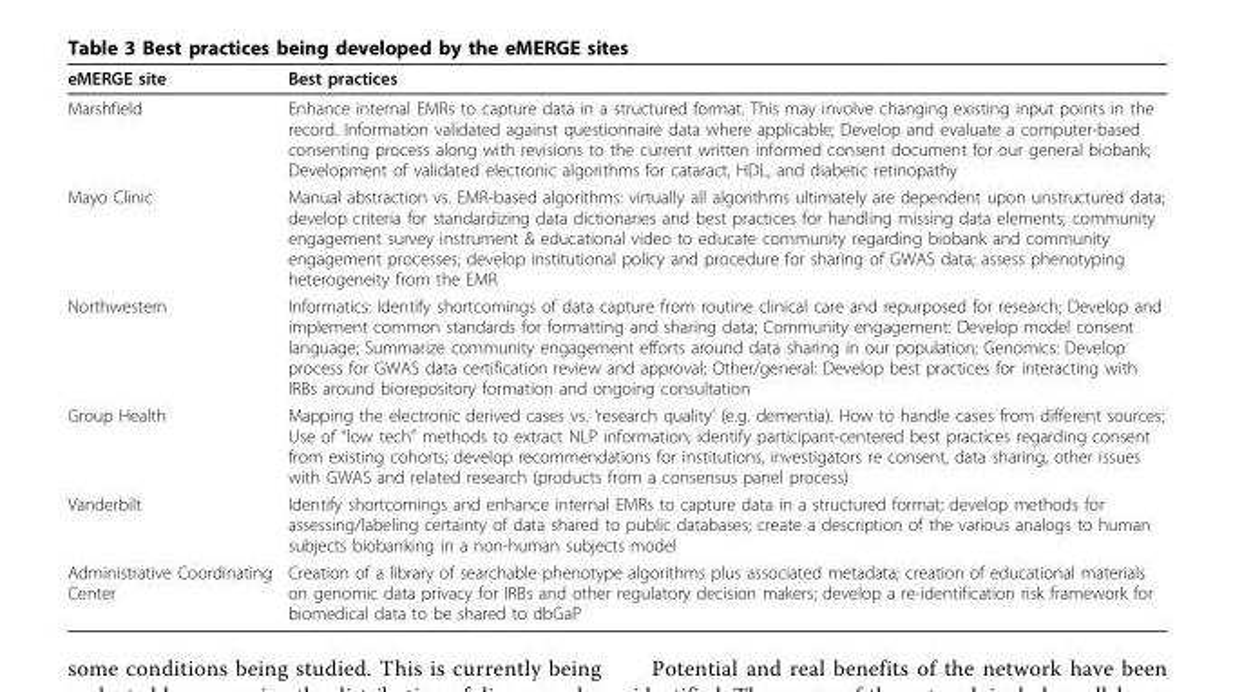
<table><tbody><tr><td>eMERGE site</td><td>Best practices</td></tr><tr><td>Marshfield</td><td>Enhance internal EMRs to capture data in a structured format. This may involve changing existing input points in the record. Information validated against questionnaire data where applicable; Develop and evaluate a computer-based consenting process along with revisions to the current written informed consent document for our general biobank; Development of validated electronic algorithms for cataract, HDL, and diabetic retinopathy</td></tr><tr><td>Mayo Clinic</td><td>Manual abstraction vs. EMR-based algorithms: virtually all algorithms ultimately are dependent upon unstructured data; develop criteria for standardizing data dictionaries and best practices for handling missing data elements; community engagement survey instrument &amp; educational video to educate community regarding biobank and community engagement processes; develop institutional policy and procedure for sharing of GWAS data; assess phenotyping heterogeneity from the EMR</td></tr><tr><td>Northwestern</td><td>Informatics: Identify shortcomings of data capture from routine clinical care and repurposed for research; Develop and implement common standards for formatting and sharing data; Community engagement: Develop model consent language; Summarize community engagement efforts around data sharing in our population; Genomics: Develop process for GWAS data certification review and approval; Other/general: Develop best practices for interacting with IRBs around biorepository formation and ongoing consultation</td></tr><tr><td>Group Health</td><td>Mapping the electronic derived cases vs. ‘research quality’ (e.g. dementia). How to handle cases from different sources; Use of “low tech” methods to extract NLP information; identify participant-centered best practices regarding consent from existing cohorts; develop recommendations for institutions, investigators re consent, data sharing, other issues with GWAS and related research (products from a consensus panel process)</td></tr><tr><td>Vanderbilt</td><td>Identify shortcomings and enhance internal EMRs to capture data in a structured format; develop methods for assessing/labeling certainty of data shared to public databases; create a description of the various analogs to human subjects biobanking in a non-human subjects model</td></tr><tr><td>Administrative Coordinating Center</td><td>Creation of a library of searchable phenotype algorithms plus associated metadata; creation of educational materials on genomic data privacy for IRBs and other regulatory decision makers; develop a re-identification risk framework for biomedical data to be shared to dbGaP</td></tr></tbody></table>